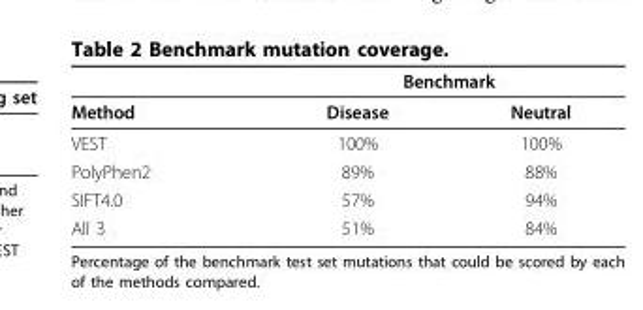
<table><thead><tr><td rowspan="2">Method</td><td colspan="2">Benchmark</td></tr><tr><td>Disease</td><td>Neutral</td></tr></thead><tbody><tr><td>VEST</td><td>100%</td><td>100%</td></tr><tr><td>PolyPhen2</td><td>89%</td><td>88%</td></tr><tr><td>SIFT4.0</td><td>57%</td><td>94%</td></tr><tr><td>All 3</td><td>51%</td><td>84%</td></tr></tbody></table>